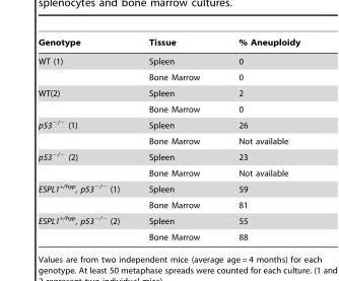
<table><thead><tr><td>Genotype</td><td>Tissue</td><td>% Aneuploidy</td></tr></thead><tbody><tr><td rowspan="2">WT (1)</td><td>Spleen</td><td>0</td></tr><tr><td>Bone Marrow</td><td>0</td></tr><tr><td rowspan="2">WT(2)</td><td>Spleen</td><td>2</td></tr><tr><td>Bone Marrow</td><td>0</td></tr><tr><td rowspan="2">p53<sup>−/−</sup> (1)</td><td>Spleen</td><td>26</td></tr><tr><td>Bone Marrow</td><td>Not available</td></tr><tr><td rowspan="2">p53<sup>−/−</sup> (2)</td><td>Spleen</td><td>23</td></tr><tr><td>Bone Marrow</td><td>Not available</td></tr><tr><td rowspan="2">ESPL1<sup>+/hyp</sup>, p53<sup>−/−</sup> (1)</td><td>Spleen</td><td>59</td></tr><tr><td>Bone Marrow</td><td>81</td></tr><tr><td rowspan="2">ESPL1<sup>+/hyp</sup>, p53<sup>−/−</sup> (2)</td><td>Spleen</td><td>55</td></tr><tr><td>Bone Marrow</td><td>88</td></tr></tbody></table>